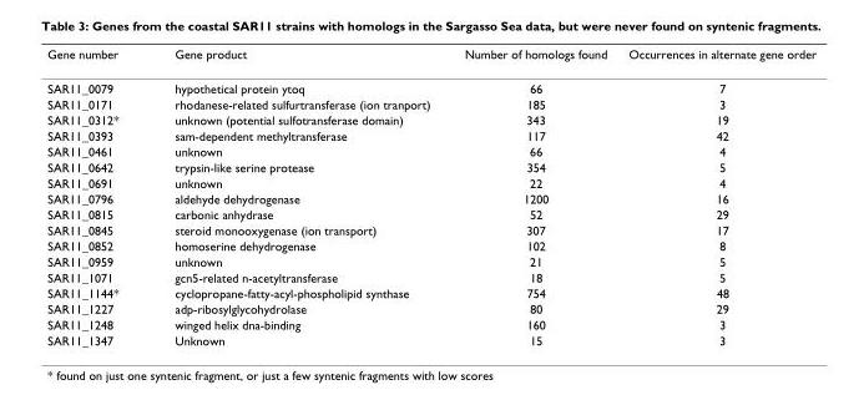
<table><thead><tr><td>Gene number</td><td>Gene product</td><td>Number of homologs found</td><td>Occurrences in alternate gene order</td></tr></thead><tbody><tr><td>SAR11_0079</td><td>hypothetical protein ytoq</td><td>66</td><td>7</td></tr><tr><td>SAR11_0171</td><td>rhodanese-related sulfurtransferase (ion tranport)</td><td>185</td><td>3</td></tr><tr><td>SAR11_0312*</td><td>unknown (potential sulfotransferase domain)</td><td>343</td><td>19</td></tr><tr><td>SAR11_0393</td><td>sam-dependent methyltransferase</td><td>117</td><td>42</td></tr><tr><td>SAR11_0461</td><td>unknown</td><td>66</td><td>4</td></tr><tr><td>SAR11_0642</td><td>trypsin-like serine protease</td><td>354</td><td>5</td></tr><tr><td>SAR11_0691</td><td>unknown</td><td>22</td><td>4</td></tr><tr><td>SAR11_0796</td><td>aldehyde dehydrogenase</td><td>1200</td><td>16</td></tr><tr><td>SAR11_0815</td><td>carbonic anhydrase</td><td>52</td><td>29</td></tr><tr><td>SAR11_0845</td><td>steroid monooxygenase (ion transport)</td><td>307</td><td>17</td></tr><tr><td>SAR11_0852</td><td>homoserine dehydrogenase</td><td>102</td><td>8</td></tr><tr><td>SAR11_0959</td><td>unknown</td><td>21</td><td>5</td></tr><tr><td>SAR11_1071</td><td>gcn5-related n-acetyltransferase</td><td>18</td><td>5</td></tr><tr><td>SAR11_1144*</td><td>cyclopropane-fatty-acyl-phospholipid synthase</td><td>754</td><td>48</td></tr><tr><td>SAR11_1227</td><td>adp-ribosylglycohydrolase</td><td>80</td><td>29</td></tr><tr><td>SAR11_1248</td><td>winged helix dna-binding</td><td>160</td><td>3</td></tr><tr><td>SAR11_1347</td><td>Unknown</td><td>15</td><td>3</td></tr></tbody></table>